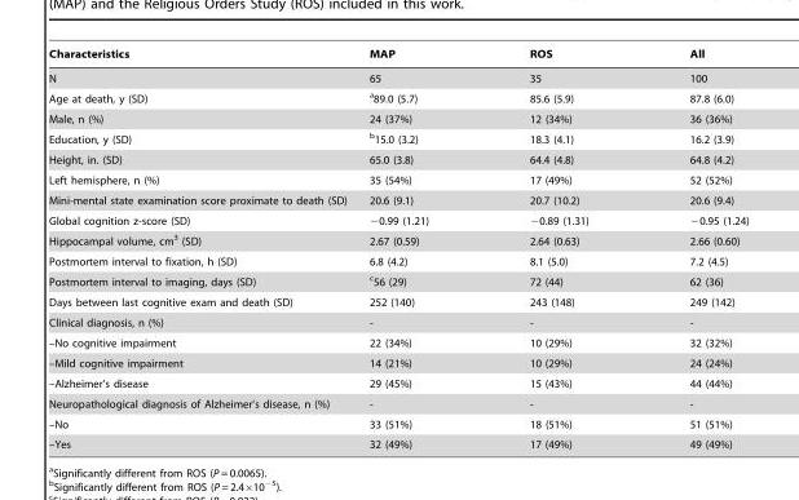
<table><thead><tr><td>Characteristics</td><td>MAP</td><td>ROS</td><td>All</td></tr></thead><tbody><tr><td>N</td><td>65</td><td>35</td><td>100</td></tr><tr><td>Age at death, y (SD)</td><td>a89.0 (5.7)</td><td>85.6 (5.9)</td><td>87.8 (6.0)</td></tr><tr><td>Male, n (%)</td><td>24 (37%)</td><td>12 (34%)</td><td>36 (36%)</td></tr><tr><td>Education, y (SD)</td><td>b15.0 (3.2)</td><td>18.3 (4.1)</td><td>16.2 (3.9)</td></tr><tr><td>Height, in. (SD)</td><td>65.0 (3.8)</td><td>64.4 (4.8)</td><td>64.8 (4.2)</td></tr><tr><td>Left hemisphere, n (%)</td><td>35 (54%)</td><td>17 (49%)</td><td>52 (52%)</td></tr><tr><td>Mini-mental state examination score proximate to death (SD)</td><td>20.6 (9.1)</td><td>20.7 (10.2)</td><td>20.6 (9.4)</td></tr><tr><td>Global cognition z-score (SD)</td><td>−0.99 (1.21)</td><td>−0.89 (1.31)</td><td>−0.95 (1.24)</td></tr><tr><td>Hippocampal volume, cm<sup>3</sup> (SD)</td><td>2.67 (0.59)</td><td>2.64 (0.63)</td><td>2.66 (0.60)</td></tr><tr><td>Postmortem interval to fixation, h (SD)</td><td>6.8 (4.2)</td><td>8.1 (5.0)</td><td>7.2 (4.5)</td></tr><tr><td>Postmortem interval to imaging, days (SD)</td><td>c56 (29)</td><td>72 (44)</td><td>62 (36)</td></tr><tr><td>Days between last cognitive exam and death (SD)</td><td>252 (140)</td><td>243 (148)</td><td>249 (142)</td></tr><tr><td>Clinical diagnosis, n (%)</td><td>-</td><td>-</td><td>-</td></tr><tr><td>–No cognitive impairment</td><td>22 (34%)</td><td>10 (29%)</td><td>32 (32%)</td></tr><tr><td>–Mild cognitive impairment</td><td>14 (21%)</td><td>10 (29%)</td><td>24 (24%)</td></tr><tr><td>–Alzheimer’s disease</td><td>29 (45%)</td><td>15 (43%)</td><td>44 (44%)</td></tr><tr><td>Neuropathological diagnosis of Alzheimer’s disease, n (%)</td><td>-</td><td>-</td><td>-</td></tr><tr><td>–No</td><td>33 (51%)</td><td>18 (51%)</td><td>51 (51%)</td></tr><tr><td>–Yes</td><td>32 (49%)</td><td>17 (49%)</td><td>49 (49%)</td></tr></tbody></table>